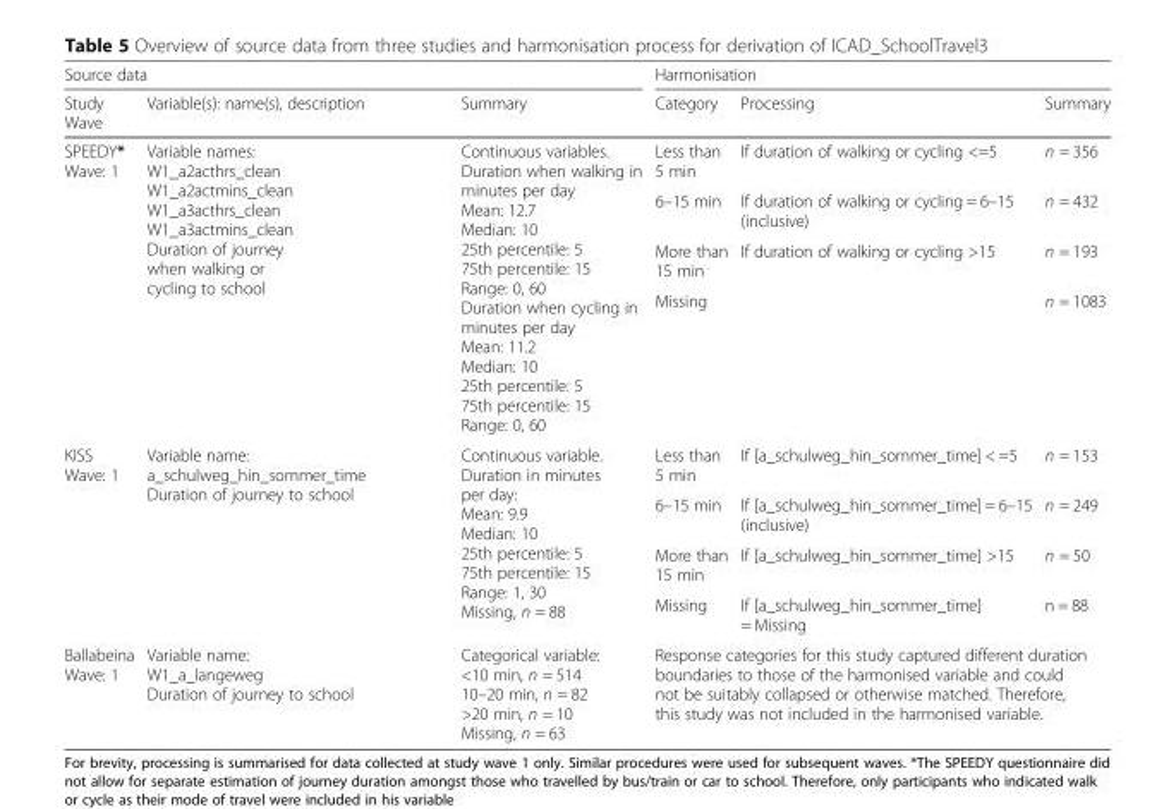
<table><thead><tr><td colspan="3">Source data</td><td colspan="3">Harmonisation</td></tr><tr><td>Study Wave</td><td>Variable(s): name(s), description</td><td>Summary</td><td>Category</td><td>Processing</td><td>Summary</td></tr></thead><tbody><tr><td rowspan="4">SPEEDY* Wave: 1</td><td rowspan="4">Variable names: W1_a2acthrs_clean W1_a2actmins_clean W1_a3acthrs_clean W1_a3actmins_clean Duration of journey when walking or cycling to school</td><td rowspan="4">Continuous variables. Duration when walking in minutes per day Mean: 12.7 Median: 10 25th percentile: 5 75th percentile: 15 Range: 0, 60 Duration when cycling in minutes per day Mean: 11.2 Median: 10 25th percentile: 5 75th percentile: 15 Range: 0, 60</td><td>Less than 5 min</td><td>If duration of walking or cycling &lt;=5</td><td>n = 356</td></tr><tr><td>6–15 min</td><td>If duration of walking or cycling = 6–15 (inclusive)</td><td>n = 432</td></tr><tr><td>More than 15 min</td><td>If duration of walking or cycling &gt;15</td><td>n = 193</td></tr><tr><td>Missing</td><td></td><td>n = 1083</td></tr><tr><td rowspan="4">KISS Wave: 1</td><td rowspan="4">Variable name: a_schulweg_hin_sommer_time Duration of journey to school</td><td rowspan="4">Continuous variable. Duration in minutes per day: Mean: 9.9 Median: 10 25th percentile: 5 75th percentile: 15 Range: 1, 30 Missing, n = 88</td><td>Less than 5 min</td><td>If [a_schulweg_hin_sommer_time] &lt; =5</td><td>n = 153</td></tr><tr><td>6–15 min</td><td>If [a_schulweg_hin_sommer_time] = 6–15 (inclusive)</td><td>n = 249</td></tr><tr><td>More than 15 min</td><td>If [a_schulweg_hin_sommer_time] &gt;15</td><td>n = 50</td></tr><tr><td>Missing</td><td>If [a_schulweg_hin_sommer_time] = Missing</td><td>n = 88</td></tr><tr><td>Ballabeina Wave: 1</td><td>Variable name: W1_a_langeweg Duration of journey to school</td><td>Categorical variable: &lt;10 min, n = 514 10–20 min, n = 82 &gt;20 min, n = 10 Missing, n = 63</td><td colspan="3">Response categories for this study captured different duration boundaries to those of the harmonised variable and could not be suitably collapsed or otherwise matched. Therefore, this study was not included in the harmonised variable.</td></tr></tbody></table>